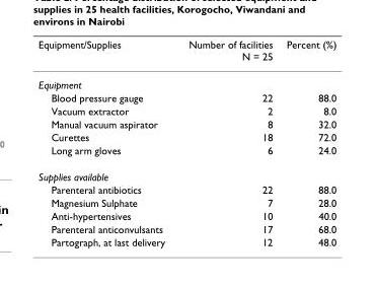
<table><thead><tr><td>Equipment/Supplies</td><td>Number of facilities N = 25</td><td>Percent (%)</td></tr></thead><tbody><tr><td colspan="3">Equipment</td></tr><tr><td>Blood pressure gauge</td><td>22</td><td>88.0</td></tr><tr><td>Vacuum extractor</td><td>2</td><td>8.0</td></tr><tr><td>Manual vacuum aspirator</td><td>8</td><td>32.0</td></tr><tr><td>Curettes</td><td>18</td><td>72.0</td></tr><tr><td>Long arm gloves</td><td>6</td><td>24.0</td></tr><tr><td colspan="3">Supplies available</td></tr><tr><td>Parenteral antibiotics</td><td>22</td><td>88.0</td></tr><tr><td>Magnesium Sulphate</td><td>7</td><td>28.0</td></tr><tr><td>Anti-hypertensives</td><td>10</td><td>40.0</td></tr><tr><td>Parenteral anticonvulsants</td><td>17</td><td>68.0</td></tr><tr><td>Partograph, at last delivery</td><td>12</td><td>48.0</td></tr></tbody></table>